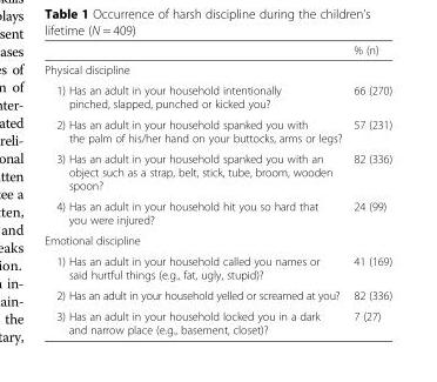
<table><thead><tr><td></td><td>% (n)</td></tr></thead><tbody><tr><td colspan="2">Physical discipline</td></tr><tr><td>1) Has an adult in your household intentionally pinched, slapped, punched or kicked you?</td><td>66 (270)</td></tr><tr><td>2) Has an adult in your household spanked you with the palm of his/her hand on your buttocks, arms or legs?</td><td>57 (231)</td></tr><tr><td>3) Has an adult in your household spanked you with an object such as a strap, belt, stick, tube, broom, wooden spoon?</td><td>82 (336)</td></tr><tr><td>4) Has an adult in your household hit you so hard that you were injured?</td><td>24 (99)</td></tr><tr><td colspan="2">Emotional discipline</td></tr><tr><td>1) Has an adult in your household called you names or said hurtful things (e.g., fat, ugly, stupid)?</td><td>41 (169)</td></tr><tr><td>2) Has an adult in your household yelled or screamed at you?</td><td>82 (336)</td></tr><tr><td>3) Has an adult in your household locked you in a dark and narrow place (e.g., basement, closet)?</td><td>7 (27)</td></tr></tbody></table>